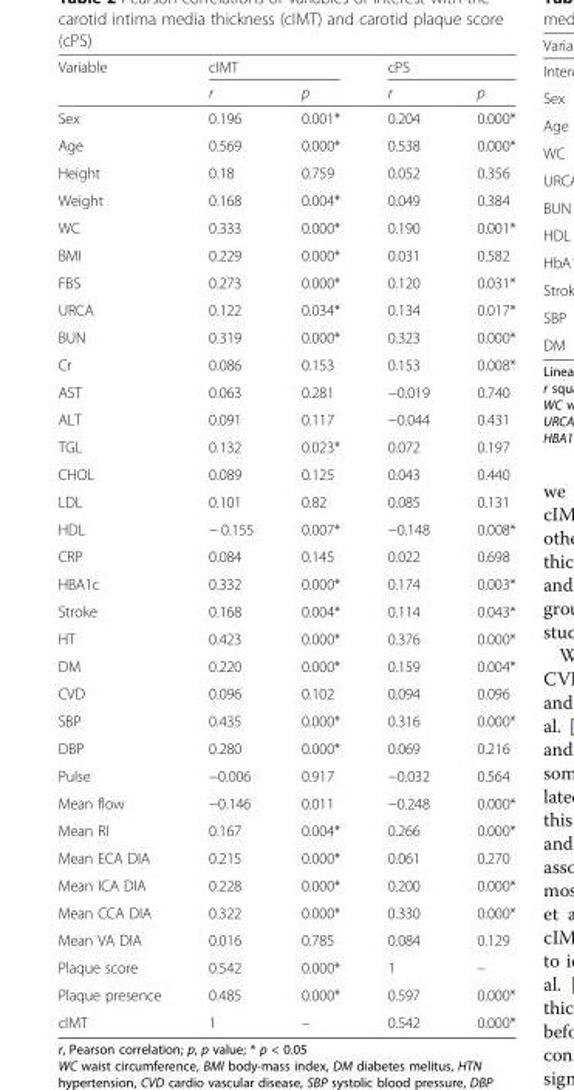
<table><thead><tr><td rowspan="2">Variable</td><td colspan="2">cIMT</td><td colspan="2">cPS</td></tr><tr><td>r</td><td>p</td><td>r</td><td>p</td></tr></thead><tbody><tr><td>Sex</td><td>0.196</td><td>0.001*</td><td>0.204</td><td>0.000*</td></tr><tr><td>Age</td><td>0.569</td><td>0.000*</td><td>0.538</td><td>0.000*</td></tr><tr><td>Height</td><td>0.18</td><td>0.759</td><td>0.052</td><td>0.356</td></tr><tr><td>Weight</td><td>0.168</td><td>0.004*</td><td>0.049</td><td>0.384</td></tr><tr><td>WC</td><td>0.333</td><td>0.000*</td><td>0.190</td><td>0.001*</td></tr><tr><td>BMI</td><td>0.229</td><td>0.000*</td><td>0.031</td><td>0.582</td></tr><tr><td>FBS</td><td>0.273</td><td>0.000*</td><td>0.120</td><td>0.031*</td></tr><tr><td>URCA</td><td>0.122</td><td>0.034*</td><td>0.134</td><td>0.017*</td></tr><tr><td>BUN</td><td>0.319</td><td>0.000*</td><td>0.323</td><td>0.000*</td></tr><tr><td>Cr</td><td>0.086</td><td>0.153</td><td>0.153</td><td>0.008*</td></tr><tr><td>AST</td><td>0.063</td><td>0.281</td><td>−0.019</td><td>0.740</td></tr><tr><td>ALT</td><td>0.091</td><td>0.117</td><td>−0.044</td><td>0.431</td></tr><tr><td>TGL</td><td>0.132</td><td>0.023*</td><td>0.072</td><td>0.197</td></tr><tr><td>CHOL</td><td>0.089</td><td>0.125</td><td>0.043</td><td>0.440</td></tr><tr><td>LDL</td><td>0.101</td><td>0.82</td><td>0.085</td><td>0.131</td></tr><tr><td>HDL</td><td>− 0.155</td><td>0.007*</td><td>−0.148</td><td>0.008*</td></tr><tr><td>CRP</td><td>0.084</td><td>0.145</td><td>0.022</td><td>0.698</td></tr><tr><td>HBA1c</td><td>0.332</td><td>0.000*</td><td>0.174</td><td>0.003*</td></tr><tr><td>Stroke</td><td>0.168</td><td>0.004*</td><td>0.114</td><td>0.043*</td></tr><tr><td>HT</td><td>0.423</td><td>0.000*</td><td>0.376</td><td>0.000*</td></tr><tr><td>DM</td><td>0.220</td><td>0.000*</td><td>0.159</td><td>0.004*</td></tr><tr><td>CVD</td><td>0.096</td><td>0.102</td><td>0.094</td><td>0.096</td></tr><tr><td>SBP</td><td>0.435</td><td>0.000*</td><td>0.316</td><td>0.000*</td></tr><tr><td>DBP</td><td>0.280</td><td>0.000*</td><td>0.069</td><td>0.216</td></tr><tr><td>Pulse</td><td>−0.006</td><td>0.917</td><td>−0.032</td><td>0.564</td></tr><tr><td>Mean flow</td><td>−0.146</td><td>0.011</td><td>−0.248</td><td>0.000*</td></tr><tr><td>Mean RI</td><td>0.167</td><td>0.004*</td><td>0.266</td><td>0.000*</td></tr><tr><td>Mean ECA DIA</td><td>0.215</td><td>0.000*</td><td>0.061</td><td>0.270</td></tr><tr><td>Mean ICA DIA</td><td>0.228</td><td>0.000*</td><td>0.200</td><td>0.000*</td></tr><tr><td>Mean CCA DIA</td><td>0.322</td><td>0.000*</td><td>0.330</td><td>0.000*</td></tr><tr><td>Mean VA DIA</td><td>0.016</td><td>0.785</td><td>0.084</td><td>0.129</td></tr><tr><td>Plaque score</td><td>0.542</td><td>0.000*</td><td>1</td><td>–</td></tr><tr><td>Plaque presence</td><td>0.485</td><td>0.000*</td><td>0.597</td><td>0.000*</td></tr><tr><td>cIMT</td><td>1</td><td>–</td><td>0.542</td><td>0.000*</td></tr></tbody></table>